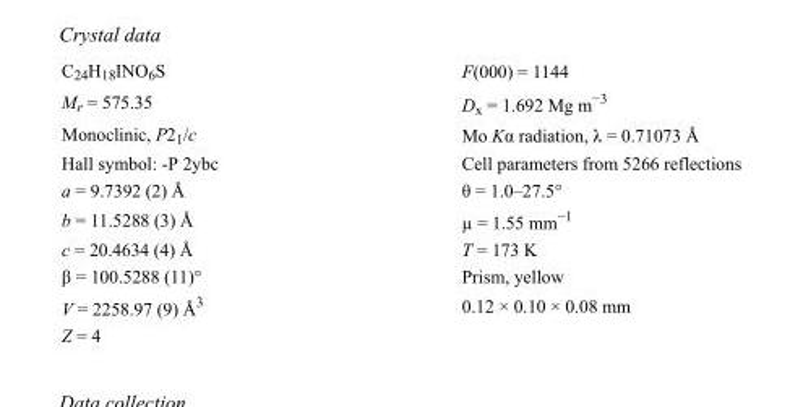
<table><tbody><tr><td>C<sub>24</sub>H<sub>18</sub>INO<sub>6</sub>S</td><td>F(000) = 1144</td></tr><tr><td>M<sub>r</sub> = 575.35</td><td>D<sub>x</sub> = 1.692 Mg m<sup>−3</sup></td></tr><tr><td>Monoclinic, P2<sub>1</sub>/c</td><td>Mo Kα radiation, λ = 0.71073 Å</td></tr><tr><td>Hall symbol: -P 2ybc</td><td>Cell parameters from 5266 reflections</td></tr><tr><td>a = 9.7392 (2) Å</td><td>θ = 1.0–27.5°</td></tr><tr><td>b = 11.5288 (3) Å</td><td>µ = 1.55 mm<sup>−1</sup></td></tr><tr><td>c = 20.4634 (4) Å</td><td>T = 173 K</td></tr><tr><td>β = 100.5288 (11)°</td><td>Prism, yellow</td></tr><tr><td>V = 2258.97 (9) Å<sup>3</sup></td><td>0.12 × 0.10 × 0.08 mm</td></tr><tr><td>Z = 4</td><td></td></tr></tbody></table>